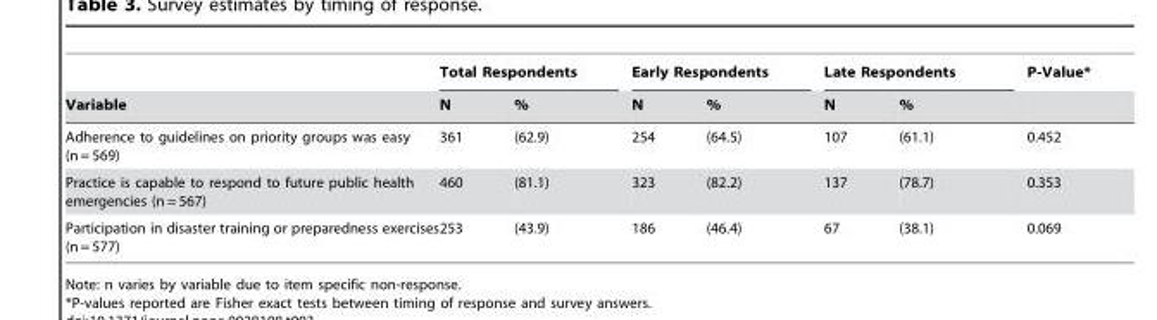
<table><thead><tr><td rowspan="2">Variable</td><td colspan="2">Total Respondents</td><td colspan="2">Early Respondents</td><td colspan="2">Late Respondents</td><td rowspan="2">P-Value*</td></tr><tr><td>N</td><td>%</td><td>N</td><td>%</td><td>N</td><td>%</td></tr></thead><tbody><tr><td>Adherence to guidelines on priority groups was easy (n = 569)</td><td>361</td><td>(62.9)</td><td>254</td><td>(64.5)</td><td>107</td><td>(61.1)</td><td>0.452</td></tr><tr><td>Practice is capable to respond to future public health emergencies (n = 567)</td><td>460</td><td>(81.1)</td><td>323</td><td>(82.2)</td><td>137</td><td>(78.7)</td><td>0.353</td></tr><tr><td>Participation in disaster training or preparedness exercises (n = 577)</td><td>253</td><td>(43.9)</td><td>186</td><td>(46.4)</td><td>67</td><td>(38.1)</td><td>0.069</td></tr></tbody></table>